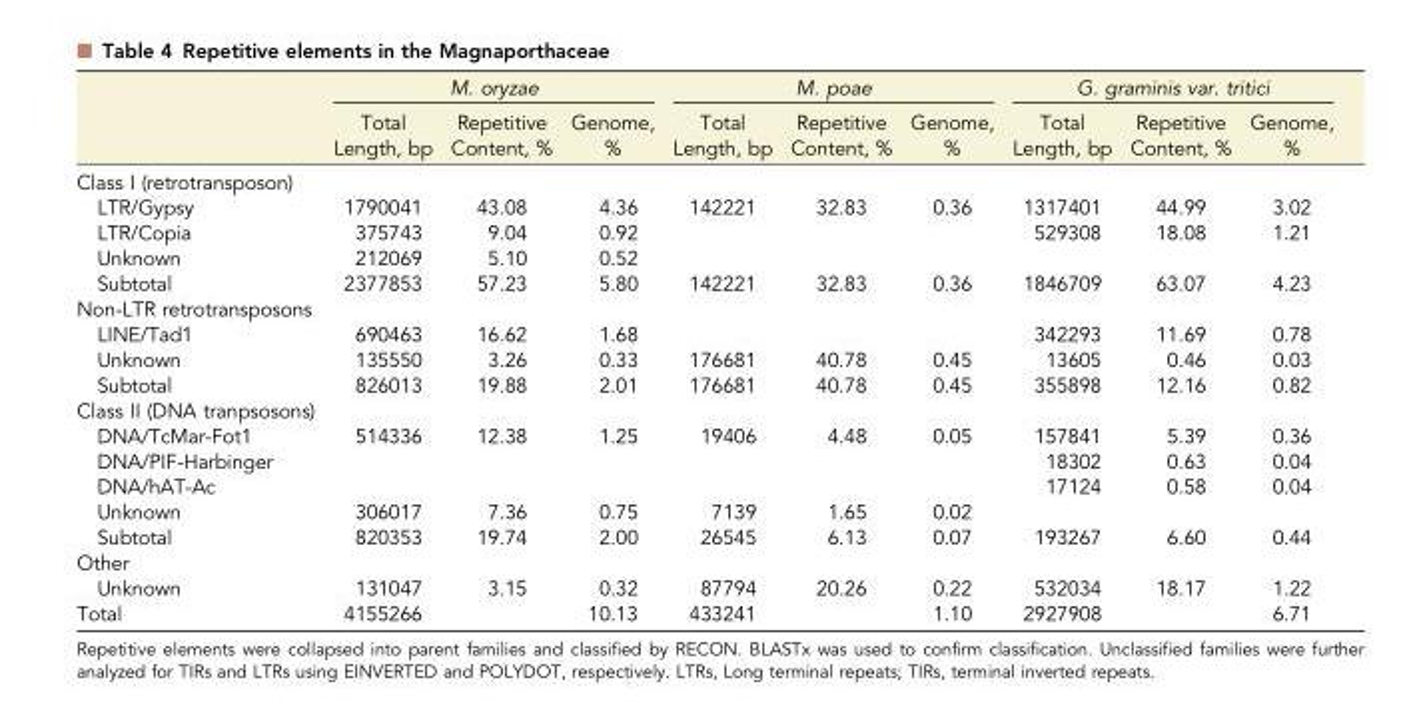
<table><thead><tr><td rowspan="2"></td><td colspan="3">M. oryzae</td><td colspan="3">M. poae</td><td colspan="3">G. graminis var. tritici</td></tr><tr><td>Total Length, bp</td><td>Repetitive Content, %</td><td>Genome, %</td><td>Total Length, bp</td><td>Repetitive Content, %</td><td>Genome, %</td><td>Total Length, bp</td><td>Repetitive Content, %</td><td>Genome, %</td></tr></thead><tbody><tr><td colspan="10">Class I (retrotransposon)</td></tr><tr><td>LTR/Gypsy</td><td>1790041</td><td>43.08</td><td>4.36</td><td>142221</td><td>32.83</td><td>0.36</td><td>1317401</td><td>44.99</td><td>3.02</td></tr><tr><td>LTR/Copia</td><td>375743</td><td>9.04</td><td>0.92</td><td></td><td></td><td></td><td>529308</td><td>18.08</td><td>1.21</td></tr><tr><td>Unknown</td><td>212069</td><td>5.10</td><td>0.52</td><td></td><td></td><td></td><td></td><td></td><td></td></tr><tr><td>Subtotal</td><td>2377853</td><td>57.23</td><td>5.80</td><td>142221</td><td>32.83</td><td>0.36</td><td>1846709</td><td>63.07</td><td>4.23</td></tr><tr><td colspan="10">Non-LTR retrotransposons</td></tr><tr><td>LINE/Tad1</td><td>690463</td><td>16.62</td><td>1.68</td><td></td><td></td><td></td><td>342293</td><td>11.69</td><td>0.78</td></tr><tr><td>Unknown</td><td>135550</td><td>3.26</td><td>0.33</td><td>176681</td><td>40.78</td><td>0.45</td><td>13605</td><td>0.46</td><td>0.03</td></tr><tr><td>Subtotal</td><td>826013</td><td>19.88</td><td>2.01</td><td>176681</td><td>40.78</td><td>0.45</td><td>355898</td><td>12.16</td><td>0.82</td></tr><tr><td colspan="10">Class II (DNA tranpsosons)</td></tr><tr><td>DNA/TcMar-Fot1</td><td>514336</td><td>12.38</td><td>1.25</td><td>19406</td><td>4.48</td><td>0.05</td><td>157841</td><td>5.39</td><td>0.36</td></tr><tr><td>DNA/PIF-Harbinger</td><td></td><td></td><td></td><td></td><td></td><td></td><td>18302</td><td>0.63</td><td>0.04</td></tr><tr><td>DNA/hAT-Ac</td><td></td><td></td><td></td><td></td><td></td><td></td><td>17124</td><td>0.58</td><td>0.04</td></tr><tr><td>Unknown</td><td>306017</td><td>7.36</td><td>0.75</td><td>7139</td><td>1.65</td><td>0.02</td><td></td><td></td><td></td></tr><tr><td>Subtotal</td><td>820353</td><td>19.74</td><td>2.00</td><td>26545</td><td>6.13</td><td>0.07</td><td>193267</td><td>6.60</td><td>0.44</td></tr><tr><td colspan="10">Other</td></tr><tr><td>Unknown</td><td>131047</td><td>3.15</td><td>0.32</td><td>87794</td><td>20.26</td><td>0.22</td><td>532034</td><td>18.17</td><td>1.22</td></tr><tr><td>Total</td><td>4155266</td><td></td><td>10.13</td><td>433241</td><td></td><td>1.10</td><td>2927908</td><td></td><td>6.71</td></tr></tbody></table>